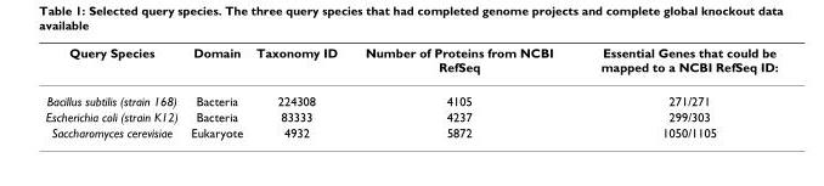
<table><thead><tr><td>Query Species</td><td>Domain</td><td>Taxonomy ID</td><td>Number of Proteins from NCBI RefSeq</td><td>Essential Genes that could be mapped to a NCBI RefSeq ID:</td></tr></thead><tbody><tr><td>Bacillus subtilis (strain 168)</td><td>Bacteria</td><td>224308</td><td>4105</td><td>271/271</td></tr><tr><td>Escherichia coli (strain K12)</td><td>Bacteria</td><td>83333</td><td>4237</td><td>299/303</td></tr><tr><td>Saccharomyces cerevisiae</td><td>Eukaryote</td><td>4932</td><td>5872</td><td>1050/1105</td></tr></tbody></table>